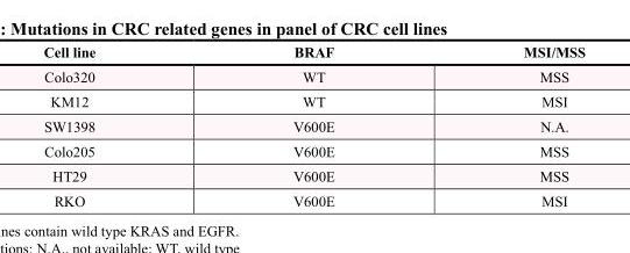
<table><thead><tr><td>Cell line</td><td>BRAF</td><td>MSI/MSS</td></tr></thead><tbody><tr><td>Colo320</td><td>WT</td><td>MSS</td></tr><tr><td>KM12</td><td>WT</td><td>MSI</td></tr><tr><td>SW1398</td><td>V600E</td><td>N.A.</td></tr><tr><td>Colo205</td><td>V600E</td><td>MSS</td></tr><tr><td>HT29</td><td>V600E</td><td>MSS</td></tr><tr><td>RKO</td><td>V600E</td><td>MSI</td></tr></tbody></table>